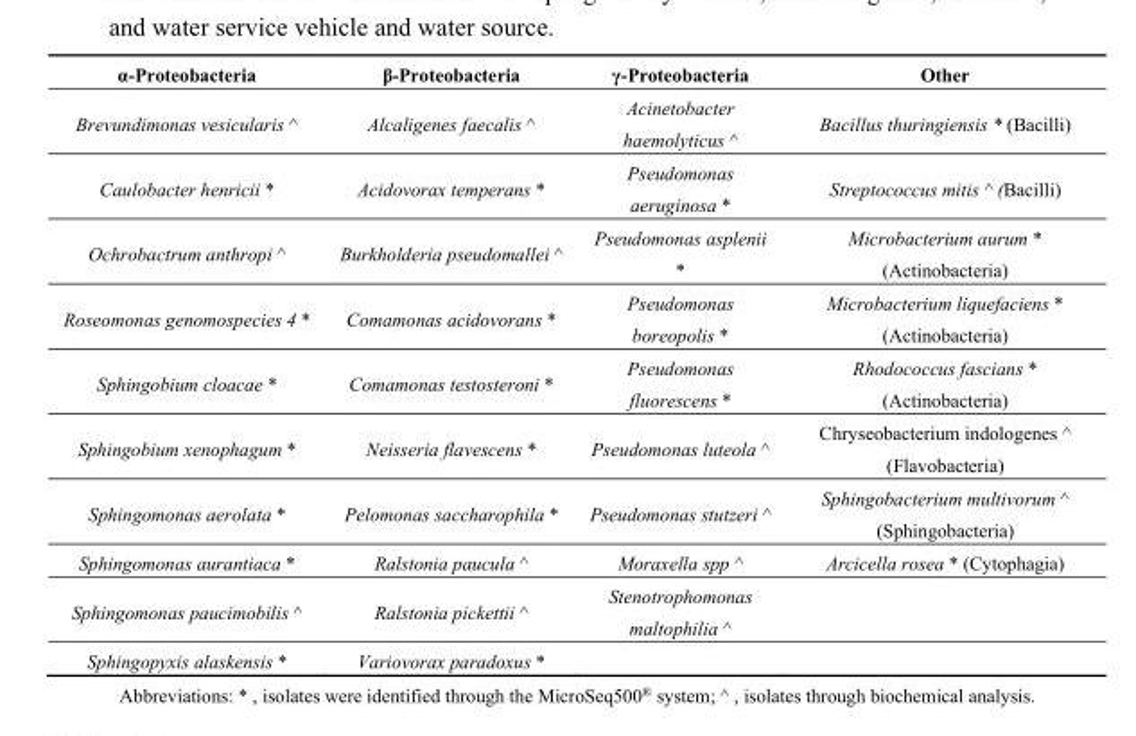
<table><thead><tr><td>α-Proteobacteria</td><td>β-Proteobacteria</td><td>γ-Proteobacteria</td><td>Other</td></tr></thead><tbody><tr><td>Brevundimonas vesicularis ^</td><td>Alcaligenes faecalis ^</td><td>Acinetobacter haemolyticus ^</td><td>Bacillus thuringiensis * (Bacilli)</td></tr><tr><td>Caulobacter henricii *</td><td>Acidovorax temperans *</td><td>Pseudomonas aeruginosa *</td><td>Streptococcus mitis ^ (Bacilli)</td></tr><tr><td>Ochrobactrum anthropi ^</td><td>Burkholderia pseudomallei ^</td><td>Pseudomonas asplenii *</td><td>Microbacterium aurum * (Actinobacteria)</td></tr><tr><td>Roseomonas genomospecies 4 *</td><td>Comamonas acidovorans *</td><td>Pseudomonas boreopolis *</td><td>Microbacterium liquefaciens * (Actinobacteria)</td></tr><tr><td>Sphingobium cloacae *</td><td>Comamonas testosteroni *</td><td>Pseudomonas fluorescens *</td><td>Rhodococcus fascians * (Actinobacteria)</td></tr><tr><td>Sphingobium xenophagum *</td><td>Neisseria flavescens *</td><td>Pseudomonas luteola ^</td><td>Chryseobacterium indologenes ^ (Flavobacteria)</td></tr><tr><td>Sphingomonas aerolata *</td><td>Pelomonas saccharophila *</td><td>Pseudomonas stutzeri ^</td><td>Sphingobacterium multivorum ^ (Sphingobacteria)</td></tr><tr><td>Sphingomonas aurantiaca *</td><td>Ralstonia paucula ^</td><td>Moraxella spp ^</td><td>Arcicella rosea * (Cytophagia)</td></tr><tr><td>Sphingomonas paucimobilis ^</td><td>Ralstonia pickettii ^</td><td>Stenotrophomonas maltophilia ^</td><td></td></tr><tr><td>Sphingopyxis alaskensis *</td><td>Variovorax paradoxus *</td><td></td><td></td></tr></tbody></table>